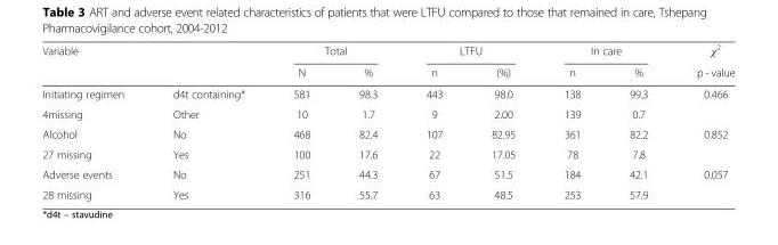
<table><thead><tr><td rowspan="2">Variable</td><td rowspan="2"></td><td colspan="2">Total</td><td colspan="2">LTFU</td><td colspan="2">In care</td><td rowspan="2">χ<sup>2</sup> p - value</td></tr><tr><td>N</td><td>%</td><td>n</td><td>(%)</td><td>n</td><td>%</td></tr></thead><tbody><tr><td>Initiating regimen</td><td>d4t containing*</td><td>581</td><td>98.3</td><td>443</td><td>98.0</td><td>138</td><td>99.3</td><td rowspan="2">0.466</td></tr><tr><td>4missing</td><td>Other</td><td>10</td><td>1.7</td><td>9</td><td>2.00</td><td>139</td><td>0.7</td></tr><tr><td>Alcohol</td><td>No</td><td>468</td><td>82.4</td><td>107</td><td>82.95</td><td>361</td><td>82.2</td><td rowspan="2">0.852</td></tr><tr><td>27 missing</td><td>Yes</td><td>100</td><td>17.6</td><td>22</td><td>17.05</td><td>78</td><td>7.8</td></tr><tr><td>Adverse events</td><td>No</td><td>251</td><td>44.3</td><td>67</td><td>51.5</td><td>184</td><td>42.1</td><td rowspan="2">0.057</td></tr><tr><td>28 missing</td><td>Yes</td><td>316</td><td>55.7</td><td>63</td><td>48.5</td><td>253</td><td>57.9</td></tr></tbody></table>